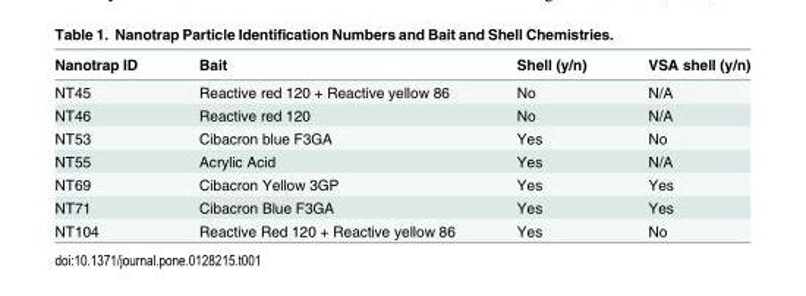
<table><thead><tr><td>Nanotrap ID</td><td>Bait</td><td>Shell (y/n)</td><td>VSA shell (y/n)</td></tr></thead><tbody><tr><td>NT45</td><td>Reactive red 120 + Reactive yellow 86</td><td>No</td><td>N/A</td></tr><tr><td>NT46</td><td>Reactive red 120</td><td>No</td><td>N/A</td></tr><tr><td>NT53</td><td>Cibacron blue F3GA</td><td>Yes</td><td>No</td></tr><tr><td>NT55</td><td>Acrylic Acid</td><td>Yes</td><td>N/A</td></tr><tr><td>NT69</td><td>Cibacron Yellow 3GP</td><td>Yes</td><td>Yes</td></tr><tr><td>NT71</td><td>Cibacron Blue F3GA</td><td>Yes</td><td>Yes</td></tr><tr><td>NT104</td><td>Reactive Red 120 + Reactive yellow 86</td><td>Yes</td><td>No</td></tr></tbody></table>